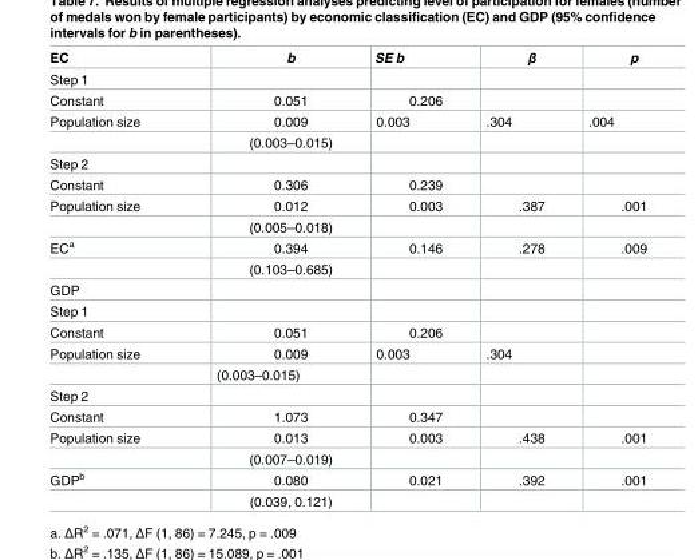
<table><thead><tr><td>EC</td><td>b</td><td>SE b</td><td>β</td><td>p</td></tr></thead><tbody><tr><td colspan="5">Step 1</td></tr><tr><td>Constant</td><td>0.051</td><td>0.206</td><td></td><td></td></tr><tr><td rowspan="2">Population size</td><td>0.009</td><td>0.003</td><td>.304</td><td>.004</td></tr><tr><td>(0.003–0.015)</td><td></td><td></td><td></td></tr><tr><td colspan="5">Step 2</td></tr><tr><td>Constant</td><td>0.306</td><td>0.239</td><td></td><td></td></tr><tr><td rowspan="2">Population size</td><td>0.012</td><td>0.003</td><td>.387</td><td>.001</td></tr><tr><td>(0.005–0.018)</td><td></td><td></td><td></td></tr><tr><td rowspan="2">EC<sup>a</sup></td><td>0.394</td><td>0.146</td><td>.278</td><td>.009</td></tr><tr><td>(0.103–0.685)</td><td></td><td></td><td></td></tr><tr><td colspan="5">GDP</td></tr><tr><td colspan="5">Step 1</td></tr><tr><td>Constant</td><td>0.051</td><td>0.206</td><td></td><td></td></tr><tr><td rowspan="2">Population size</td><td>0.009</td><td>0.003</td><td>.304</td><td></td></tr><tr><td>(0.003–0.015)</td><td></td><td></td><td></td></tr><tr><td colspan="5">Step 2</td></tr><tr><td>Constant</td><td>1.073</td><td>0.347</td><td></td><td></td></tr><tr><td rowspan="2">Population size</td><td>0.013</td><td>0.003</td><td>.438</td><td>.001</td></tr><tr><td>(0.007–0.019)</td><td></td><td></td><td></td></tr><tr><td rowspan="2">GDP<sup>b</sup></td><td>0.080</td><td>0.021</td><td>.392</td><td>.001</td></tr><tr><td>(0.039, 0.121)</td><td></td><td></td><td></td></tr></tbody></table>